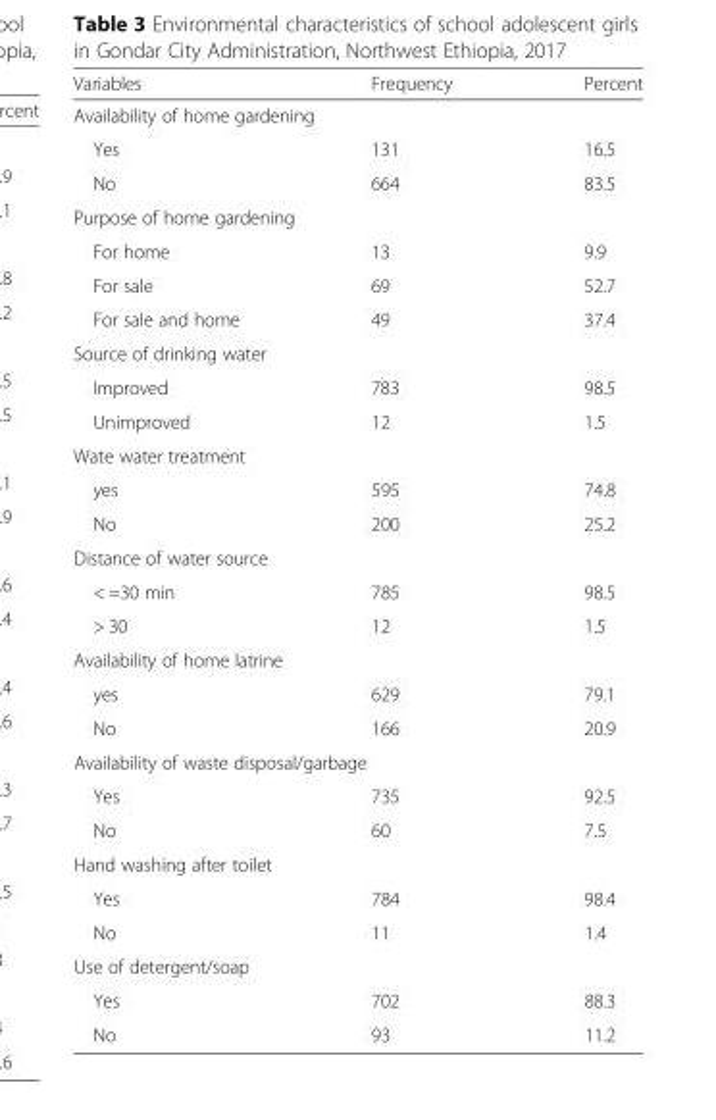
<table><thead><tr><td>Variables</td><td>Frequency</td><td>Percent</td></tr></thead><tbody><tr><td colspan="3">Availability of home gardening</td></tr><tr><td>Yes</td><td>131</td><td>16.5</td></tr><tr><td>No</td><td>664</td><td>83.5</td></tr><tr><td colspan="3">Purpose of home gardening</td></tr><tr><td>For home</td><td>13</td><td>9.9</td></tr><tr><td>For sale</td><td>69</td><td>52.7</td></tr><tr><td>For sale and home</td><td>49</td><td>37.4</td></tr><tr><td colspan="3">Source of drinking water</td></tr><tr><td>Improved</td><td>783</td><td>98.5</td></tr><tr><td>Unimproved</td><td>12</td><td>1.5</td></tr><tr><td colspan="3">Wate water treatment</td></tr><tr><td>yes</td><td>595</td><td>74.8</td></tr><tr><td>No</td><td>200</td><td>25.2</td></tr><tr><td colspan="3">Distance of water source</td></tr><tr><td>&lt; =30 min</td><td>785</td><td>98.5</td></tr><tr><td>&gt; 30</td><td>12</td><td>1.5</td></tr><tr><td colspan="3">Availability of home latrine</td></tr><tr><td>yes</td><td>629</td><td>79.1</td></tr><tr><td>No</td><td>166</td><td>20.9</td></tr><tr><td colspan="3">Availability of waste disposal/garbage</td></tr><tr><td>Yes</td><td>735</td><td>92.5</td></tr><tr><td>No</td><td>60</td><td>7.5</td></tr><tr><td colspan="3">Hand washing after toilet</td></tr><tr><td>Yes</td><td>784</td><td>98.4</td></tr><tr><td>No</td><td>11</td><td>1.4</td></tr><tr><td colspan="3">Use of detergent/soap</td></tr><tr><td>Yes</td><td>702</td><td>88.3</td></tr><tr><td>No</td><td>93</td><td>11.2</td></tr></tbody></table>